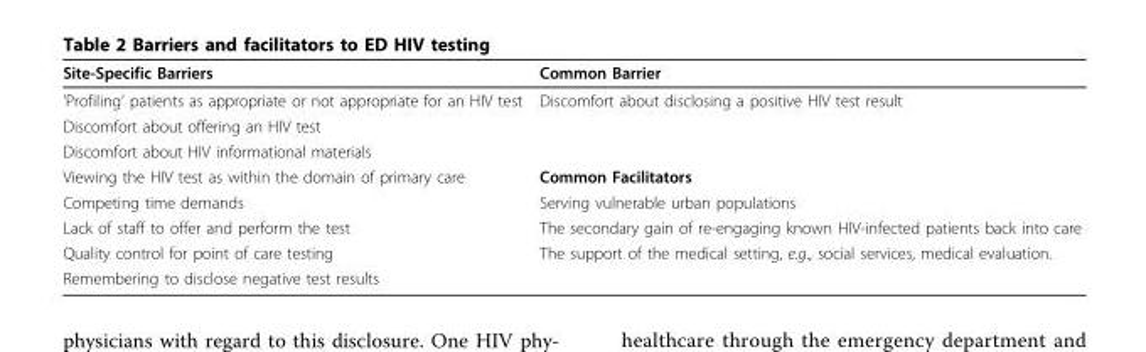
<table><thead><tr><td>Site-Specific Barriers</td><td>Common Barrier</td></tr></thead><tbody><tr><td>’Profiling’ patients as appropriate or not appropriate for an HIV test</td><td>Discomfort about disclosing a positive HIV test result</td></tr><tr><td colspan="2">Discomfort about offering an HIV test</td></tr><tr><td colspan="2">Discomfort about HIV informational materials</td></tr><tr><td>Viewing the HIV test as within the domain of primary care</td><td>Common Facilitators</td></tr><tr><td>Competing time demands</td><td>Serving vulnerable urban populations</td></tr><tr><td>Lack of staff to offer and perform the test</td><td>The secondary gain of re-engaging known HIV-infected patients back into care</td></tr><tr><td>Quality control for point of care testing</td><td>The support of the medical setting, e.g., social services, medical evaluation.</td></tr><tr><td>Remembering to disclose negative test results</td><td></td></tr></tbody></table>